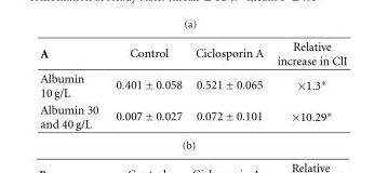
<table><thead><tr><td>A</td><td>Control</td><td>Ciclosporin A</td><td>Relative increase in ClI</td></tr></thead><tbody><tr><td>Albumin 10 g/L</td><td>0.401 ± 0.058</td><td>0.521 ± 0.065</td><td>×1.3∗</td></tr><tr><td>Albumin 30 and 40 g/L</td><td>0.007 ± 0.027</td><td>0.072 ± 0.101</td><td>×10.29∗</td></tr></tbody></table>